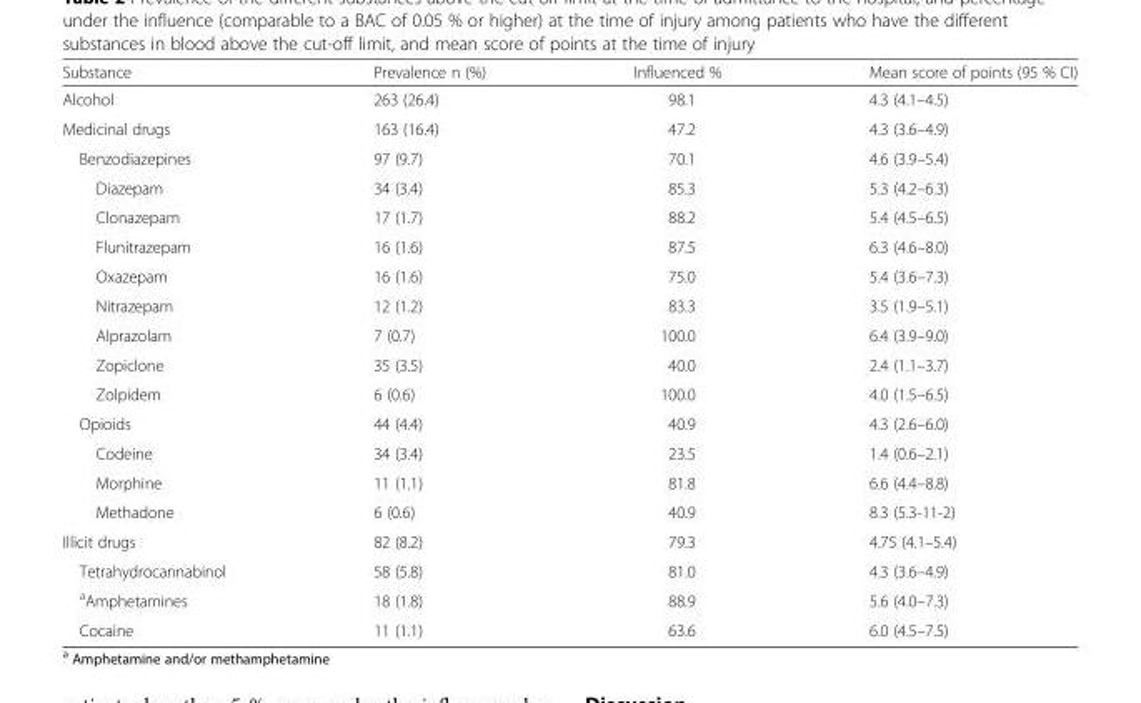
<table><thead><tr><td>Substance</td><td>Prevalence n (%)</td><td>Influenced %</td><td>Mean score of points (95 % CI)</td></tr></thead><tbody><tr><td>Alcohol</td><td>263 (26.4)</td><td>98.1</td><td>4.3 (4.1–4.5)</td></tr><tr><td>Medicinal drugs</td><td>163 (16.4)</td><td>47.2</td><td>4.3 (3.6–4.9)</td></tr><tr><td>Benzodiazepines</td><td>97 (9.7)</td><td>70.1</td><td>4.6 (3.9–5.4)</td></tr><tr><td>Diazepam</td><td>34 (3.4)</td><td>85.3</td><td>5.3 (4.2–6.3)</td></tr><tr><td>Clonazepam</td><td>17 (1.7)</td><td>88.2</td><td>5.4 (4.5–6.5)</td></tr><tr><td>Flunitrazepam</td><td>16 (1.6)</td><td>87.5</td><td>6.3 (4.6–8.0)</td></tr><tr><td>Oxazepam</td><td>16 (1.6)</td><td>75.0</td><td>5.4 (3.6–7.3)</td></tr><tr><td>Nitrazepam</td><td>12 (1.2)</td><td>83.3</td><td>3.5 (1.9–5.1)</td></tr><tr><td>Alprazolam</td><td>7 (0.7)</td><td>100.0</td><td>6.4 (3.9–9.0)</td></tr><tr><td>Zopiclone</td><td>35 (3.5)</td><td>40.0</td><td>2.4 (1.1–3.7)</td></tr><tr><td>Zolpidem</td><td>6 (0.6)</td><td>100.0</td><td>4.0 (1.5–6.5)</td></tr><tr><td>Opioids</td><td>44 (4.4)</td><td>40.9</td><td>4.3 (2.6–6.0)</td></tr><tr><td>Codeine</td><td>34 (3.4)</td><td>23.5</td><td>1.4 (0.6–2.1)</td></tr><tr><td>Morphine</td><td>11 (1.1)</td><td>81.8</td><td>6.6 (4.4–8.8)</td></tr><tr><td>Methadone</td><td>6 (0.6)</td><td>40.9</td><td>8.3 (5.3-11-2)</td></tr><tr><td>Illicit drugs</td><td>82 (8.2)</td><td>79.3</td><td>4.75 (4.1–5.4)</td></tr><tr><td>Tetrahydrocannabinol</td><td>58 (5.8)</td><td>81.0</td><td>4.3 (3.6–4.9)</td></tr><tr><td><sup>a</sup>Amphetamines</td><td>18 (1.8)</td><td>88.9</td><td>5.6 (4.0–7.3)</td></tr><tr><td>Cocaine</td><td>11 (1.1)</td><td>63.6</td><td>6.0 (4.5–7.5)</td></tr></tbody></table>